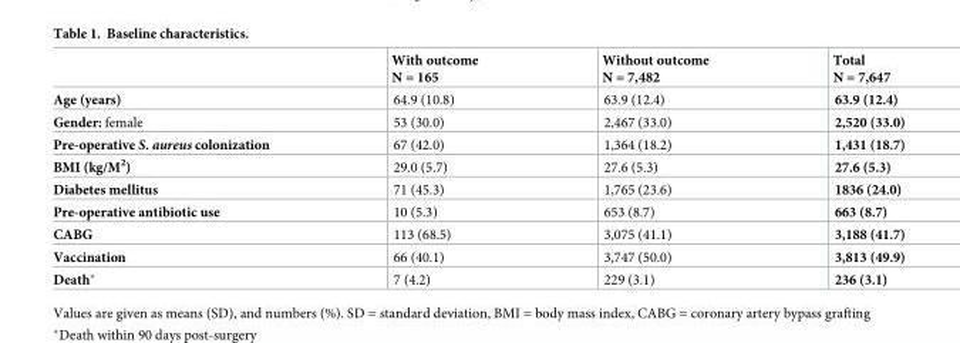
<table><thead><tr><td></td><td>With outcome N = 165</td><td>Without outcome N = 7,482</td><td>Total N = 7,647</td></tr></thead><tbody><tr><td>Age (years)</td><td>64.9 (10.8)</td><td>63.9 (12.4)</td><td>63.9 (12.4)</td></tr><tr><td>Gender: female</td><td>53 (30.0)</td><td>2,467 (33.0)</td><td>2,520 (33.0)</td></tr><tr><td>Pre-operative S. aureus colonization</td><td>67 (42.0)</td><td>1,364 (18.2)</td><td>1,431 (18.7)</td></tr><tr><td>BMI (kg/M<sup>2</sup>)</td><td>29.0 (5.7)</td><td>27.6 (5.3)</td><td>27.6 (5.3)</td></tr><tr><td>Diabetes mellitus</td><td>71 (45.3)</td><td>1,765 (23.6)</td><td>1836 (24.0)</td></tr><tr><td>Pre-operative antibiotic use</td><td>10 (5.3)</td><td>653 (8.7)</td><td>663 (8.7)</td></tr><tr><td>CABG</td><td>113 (68.5)</td><td>3,075 (41.1)</td><td>3,188 (41.7)</td></tr><tr><td>Vaccination</td><td>66 (40.1)</td><td>3,747 (50.0)</td><td>3,813 (49.9)</td></tr><tr><td>Death*</td><td>7 (4.2)</td><td>229 (3.1)</td><td>236 (3.1)</td></tr></tbody></table>